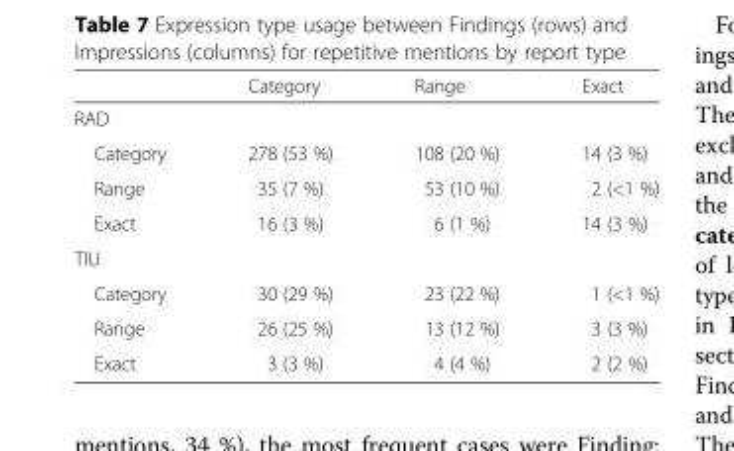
<table><thead><tr><td></td><td>Category</td><td>Range</td><td>Exact</td></tr></thead><tbody><tr><td colspan="4">RAD</td></tr><tr><td>Category</td><td>278 (53 %)</td><td>108 (20 %)</td><td>14 (3 %)</td></tr><tr><td>Range</td><td>35 (7 %)</td><td>53 (10 %)</td><td>2 (&lt;1 %)</td></tr><tr><td>Exact</td><td>16 (3 %)</td><td>6 (1 %)</td><td>14 (3 %)</td></tr><tr><td colspan="4">TIU</td></tr><tr><td>Category</td><td>30 (29 %)</td><td>23 (22 %)</td><td>1 (&lt;1 %)</td></tr><tr><td>Range</td><td>26 (25 %)</td><td>13 (12 %)</td><td>3 (3 %)</td></tr><tr><td>Exact</td><td>3 (3 %)</td><td>4 (4 %)</td><td>2 (2 %)</td></tr></tbody></table>